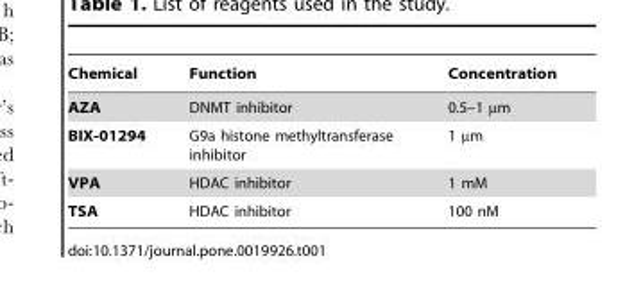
<table><thead><tr><td>Chemical</td><td>Function</td><td>Concentration</td></tr></thead><tbody><tr><td>AZA</td><td>DNMT inhibitor</td><td>0.5–1 µm</td></tr><tr><td>BIX-01294</td><td>G9a histone methyltransferase inhibitor</td><td>1 µm</td></tr><tr><td>VPA</td><td>HDAC inhibitor</td><td>1 mM</td></tr><tr><td>TSA</td><td>HDAC inhibitor</td><td>100 nM</td></tr></tbody></table>